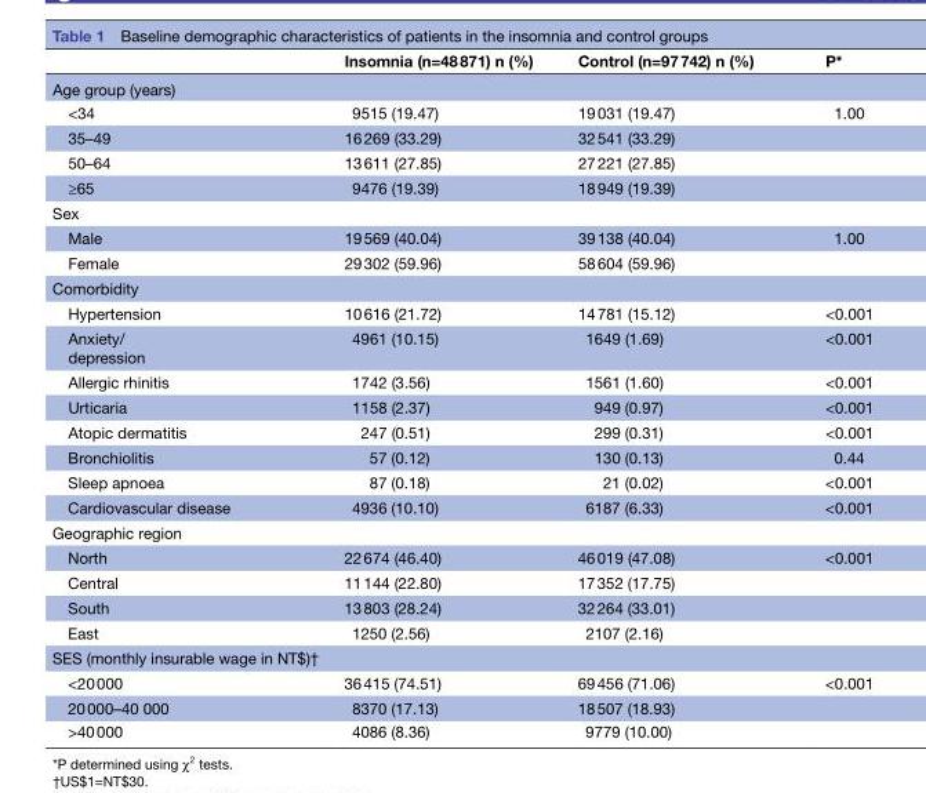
<table><thead><tr><td></td><td>Insomnia (n=48 871) n (%)</td><td>Control (n=97 742) n (%)</td><td>P*</td></tr></thead><tbody><tr><td colspan="4">Age group (years)</td></tr><tr><td>&lt;34</td><td>9515 (19.47)</td><td>19 031 (19.47)</td><td>1.00</td></tr><tr><td>35–49</td><td>16 269 (33.29)</td><td>32 541 (33.29)</td><td></td></tr><tr><td>50–64</td><td>13 611 (27.85)</td><td>27 221 (27.85)</td><td></td></tr><tr><td>≥65</td><td>9476 (19.39)</td><td>18 949 (19.39)</td><td></td></tr><tr><td colspan="4">Sex</td></tr><tr><td>Male</td><td>19 569 (40.04)</td><td>39 138 (40.04)</td><td>1.00</td></tr><tr><td>Female</td><td>29 302 (59.96)</td><td>58 604 (59.96)</td><td></td></tr><tr><td colspan="4">Comorbidity</td></tr><tr><td>Hypertension</td><td>10 616 (21.72)</td><td>14 781 (15.12)</td><td>&lt;0.001</td></tr><tr><td>Anxiety/ depression</td><td>4961 (10.15)</td><td>1649 (1.69)</td><td>&lt;0.001</td></tr><tr><td>Allergic rhinitis</td><td>1742 (3.56)</td><td>1561 (1.60)</td><td>&lt;0.001</td></tr><tr><td>Urticaria</td><td>1158 (2.37)</td><td>949 (0.97)</td><td>&lt;0.001</td></tr><tr><td>Atopic dermatitis</td><td>247 (0.51)</td><td>299 (0.31)</td><td>&lt;0.001</td></tr><tr><td>Bronchiolitis</td><td>57 (0.12)</td><td>130 (0.13)</td><td>0.44</td></tr><tr><td>Sleep apnoea</td><td>87 (0.18)</td><td>21 (0.02)</td><td>&lt;0.001</td></tr><tr><td>Cardiovascular disease</td><td>4936 (10.10)</td><td>6187 (6.33)</td><td>&lt;0.001</td></tr><tr><td colspan="4">Geographic region</td></tr><tr><td>North</td><td>22 674 (46.40)</td><td>46 019 (47.08)</td><td>&lt;0.001</td></tr><tr><td>Central</td><td>11 144 (22.80)</td><td>17 352 (17.75)</td><td></td></tr><tr><td>South</td><td>13 803 (28.24)</td><td>32 264 (33.01)</td><td></td></tr><tr><td>East</td><td>1250 (2.56)</td><td>2107 (2.16)</td><td></td></tr><tr><td colspan="4">SES (monthly insurable wage in NT$)†</td></tr><tr><td>&lt;20 000</td><td>36 415 (74.51)</td><td>69 456 (71.06)</td><td>&lt;0.001</td></tr><tr><td>20 000–40 000</td><td>8370 (17.13)</td><td>18 507 (18.93)</td><td></td></tr><tr><td>&gt;40 000</td><td>4086 (8.36)</td><td>9779 (10.00)</td><td></td></tr></tbody></table>